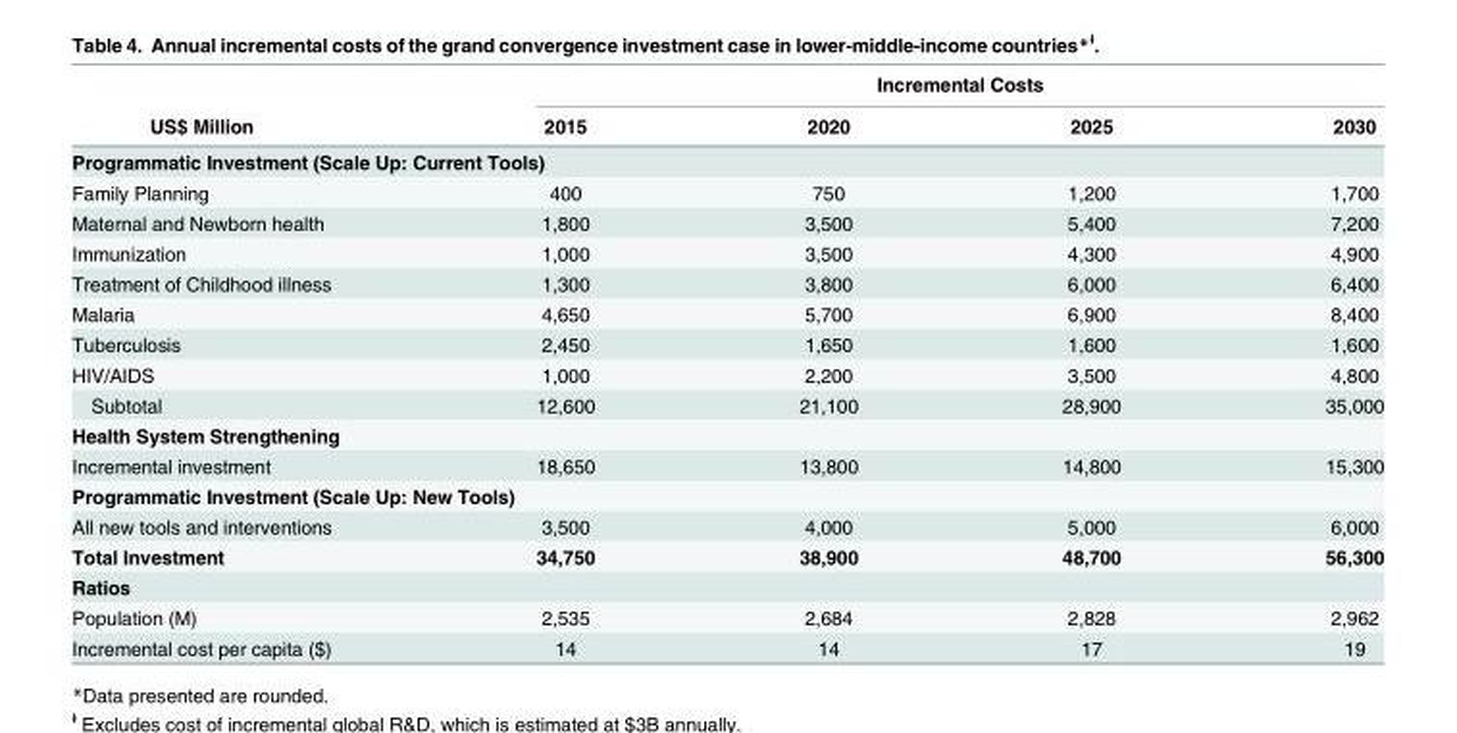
<table><thead><tr><td rowspan="2">US$ Million</td><td colspan="4">Incremental Costs</td></tr><tr><td>2015</td><td>2020</td><td>2025</td><td>2030</td></tr></thead><tbody><tr><td colspan="5">Programmatic Investment (Scale Up: Current Tools)</td></tr><tr><td>Family Planning</td><td>400</td><td>750</td><td>1,200</td><td>1,700</td></tr><tr><td>Maternal and Newborn health</td><td>1,800</td><td>3,500</td><td>5,400</td><td>7,200</td></tr><tr><td>Immunization</td><td>1,000</td><td>3,500</td><td>4,300</td><td>4,900</td></tr><tr><td>Treatment of Childhood illness</td><td>1,300</td><td>3,800</td><td>6,000</td><td>6,400</td></tr><tr><td>Malaria</td><td>4,650</td><td>5,700</td><td>6,900</td><td>8,400</td></tr><tr><td>Tuberculosis</td><td>2,450</td><td>1,650</td><td>1,600</td><td>1,600</td></tr><tr><td>HIV/AIDS</td><td>1,000</td><td>2,200</td><td>3,500</td><td>4,800</td></tr><tr><td>Subtotal</td><td>12,600</td><td>21,100</td><td>28,900</td><td>35,000</td></tr><tr><td colspan="5">Health System Strengthening</td></tr><tr><td>Incremental investment</td><td>18,650</td><td>13,800</td><td>14,800</td><td>15,300</td></tr><tr><td colspan="5">Programmatic Investment (Scale Up: New Tools)</td></tr><tr><td>All new tools and interventions</td><td>3,500</td><td>4,000</td><td>5,000</td><td>6,000</td></tr><tr><td>Total Investment</td><td>34,750</td><td>38,900</td><td>48,700</td><td>56,300</td></tr><tr><td colspan="5">Ratios</td></tr><tr><td>Population (M)</td><td>2,535</td><td>2,684</td><td>2,828</td><td>2,962</td></tr><tr><td>Incremental cost per capita ($)</td><td>14</td><td>14</td><td>17</td><td>19</td></tr></tbody></table>